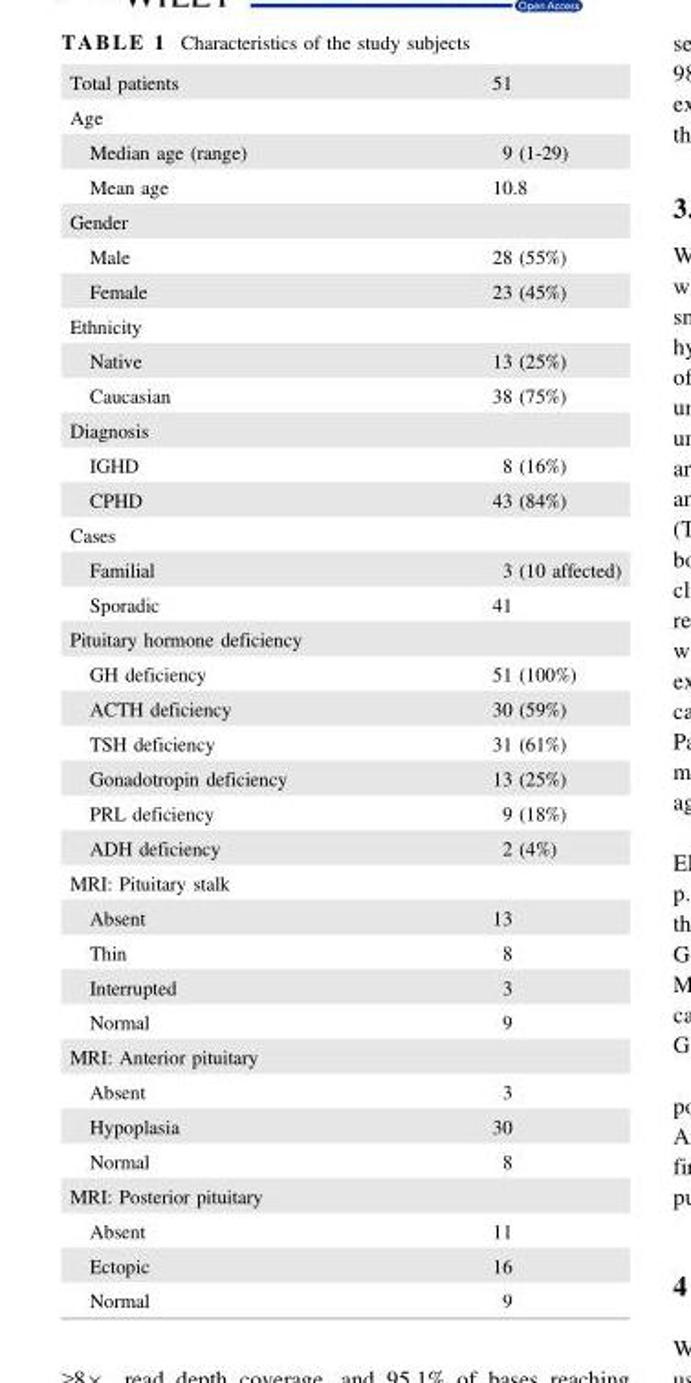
<table><tbody><tr><td>Total patients</td><td>51</td></tr><tr><td colspan="2">Age</td></tr><tr><td>Median age (range)</td><td>9 (1-29)</td></tr><tr><td>Mean age</td><td>10.8</td></tr><tr><td colspan="2">Gender</td></tr><tr><td>Male</td><td>28 (55%)</td></tr><tr><td>Female</td><td>23 (45%)</td></tr><tr><td colspan="2">Ethnicity</td></tr><tr><td>Native</td><td>13 (25%)</td></tr><tr><td>Caucasian</td><td>38 (75%)</td></tr><tr><td colspan="2">Diagnosis</td></tr><tr><td>IGHD</td><td>8 (16%)</td></tr><tr><td>CPHD</td><td>43 (84%)</td></tr><tr><td colspan="2">Cases</td></tr><tr><td>Familial</td><td>3 (10 affected)</td></tr><tr><td>Sporadic</td><td>41</td></tr><tr><td colspan="2">Pituitary hormone deficiency</td></tr><tr><td>GH deficiency</td><td>51 (100%)</td></tr><tr><td>ACTH deficiency</td><td>30 (59%)</td></tr><tr><td>TSH deficiency</td><td>31 (61%)</td></tr><tr><td>Gonadotropin deficiency</td><td>13 (25%)</td></tr><tr><td>PRL deficiency</td><td>9 (18%)</td></tr><tr><td>ADH deficiency</td><td>2 (4%)</td></tr><tr><td colspan="2">MRI: Pituitary stalk</td></tr><tr><td>Absent</td><td>13</td></tr><tr><td>Thin</td><td>8</td></tr><tr><td>Interrupted</td><td>3</td></tr><tr><td>Normal</td><td>9</td></tr><tr><td colspan="2">MRI: Anterior pituitary</td></tr><tr><td>Absent</td><td>3</td></tr><tr><td>Hypoplasia</td><td>30</td></tr><tr><td>Normal</td><td>8</td></tr><tr><td colspan="2">MRI: Posterior pituitary</td></tr><tr><td>Absent</td><td>11</td></tr><tr><td>Ectopic</td><td>16</td></tr><tr><td>Normal</td><td>9</td></tr></tbody></table>